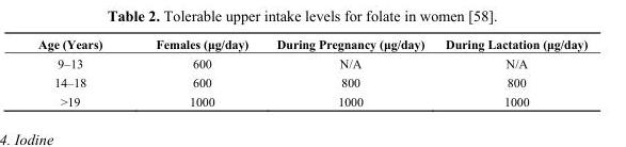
<table><thead><tr><td>Age (Years)</td><td>Females (μg/day)</td><td>During Pregnancy (μg/day)</td><td>During Lactation (μg/day)</td></tr></thead><tbody><tr><td>9–13</td><td>600</td><td>N/A</td><td>N/A</td></tr><tr><td>14–18</td><td>600</td><td>800</td><td>800</td></tr><tr><td>&gt;19</td><td>1000</td><td>1000</td><td>1000</td></tr></tbody></table>